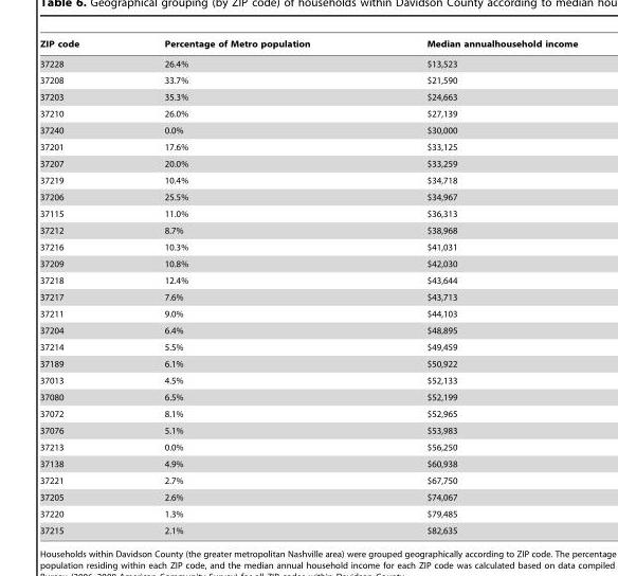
<table><thead><tr><td>ZIP code</td><td>Percentage of Metro population</td><td>Median annualhousehold income</td></tr></thead><tbody><tr><td>37228</td><td>26.4%</td><td>$13,523</td></tr><tr><td>37208</td><td>33.7%</td><td>$21,590</td></tr><tr><td>37203</td><td>35.3%</td><td>$24,663</td></tr><tr><td>37210</td><td>26.0%</td><td>$27,139</td></tr><tr><td>37240</td><td>0.0%</td><td>$30,000</td></tr><tr><td>37201</td><td>17.6%</td><td>$33,125</td></tr><tr><td>37207</td><td>20.0%</td><td>$33,259</td></tr><tr><td>37219</td><td>10.4%</td><td>$34,718</td></tr><tr><td>37206</td><td>25.5%</td><td>$34,967</td></tr><tr><td>37115</td><td>11.0%</td><td>$36,313</td></tr><tr><td>37212</td><td>8.7%</td><td>$38,968</td></tr><tr><td>37216</td><td>10.3%</td><td>$41,031</td></tr><tr><td>37209</td><td>10.8%</td><td>$42,030</td></tr><tr><td>37218</td><td>12.4%</td><td>$43,644</td></tr><tr><td>37217</td><td>7.6%</td><td>$43,713</td></tr><tr><td>37211</td><td>9.0%</td><td>$44,103</td></tr><tr><td>37204</td><td>6.4%</td><td>$48,895</td></tr><tr><td>37214</td><td>5.5%</td><td>$49,459</td></tr><tr><td>37189</td><td>6.1%</td><td>$50,922</td></tr><tr><td>37013</td><td>4.5%</td><td>$52,133</td></tr><tr><td>37080</td><td>6.5%</td><td>$52,199</td></tr><tr><td>37072</td><td>8.1%</td><td>$52,965</td></tr><tr><td>37076</td><td>5.1%</td><td>$53,983</td></tr><tr><td>37213</td><td>0.0%</td><td>$56,250</td></tr><tr><td>37138</td><td>4.9%</td><td>$60,938</td></tr><tr><td>37221</td><td>2.7%</td><td>$67,750</td></tr><tr><td>37205</td><td>2.6%</td><td>$74,067</td></tr><tr><td>37220</td><td>1.3%</td><td>$79,485</td></tr><tr><td>37215</td><td>2.1%</td><td>$82,635</td></tr></tbody></table>